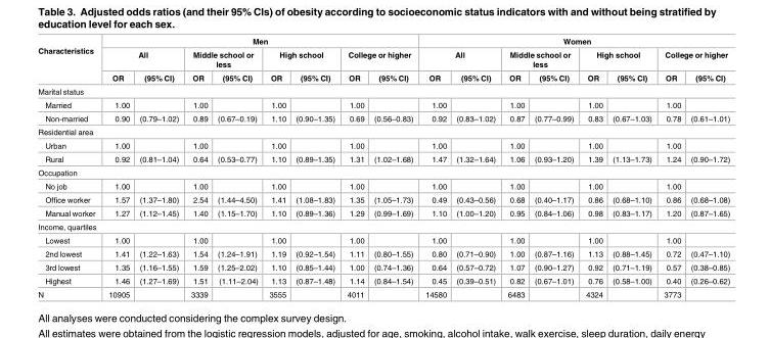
<table><thead><tr><td rowspan="3">Characteristics</td><td colspan="8">Men</td><td colspan="8">Women</td></tr><tr><td colspan="2">All</td><td colspan="2">Middle school or less</td><td colspan="2">High school</td><td colspan="2">College or higher</td><td colspan="2">All</td><td colspan="2">Middle school or less</td><td colspan="2">High school</td><td colspan="2">College or higher</td></tr><tr><td>OR</td><td>(95% CI)</td><td>OR</td><td>(95% CI)</td><td>OR</td><td>(95% CI)</td><td>OR</td><td>(95% CI)</td><td>OR</td><td>(95% CI)</td><td>OR</td><td>(95% CI)</td><td>OR</td><td>(95% CI)</td><td>OR</td><td>(95% CI)</td></tr></thead><tbody><tr><td colspan="17">Marital status</td></tr><tr><td>Married</td><td>1.00</td><td></td><td>1.00</td><td></td><td>1.00</td><td></td><td>1.00</td><td></td><td>1.00</td><td></td><td>1.00</td><td></td><td>1.00</td><td></td><td>1.00</td><td></td></tr><tr><td>Non-married</td><td>0.90</td><td>(0.79–1.02)</td><td>0.89</td><td>(0.67–0.19)</td><td>1.10</td><td>(0.90–1.35)</td><td>0.69</td><td>(0.56–0.83)</td><td>0.92</td><td>(0.83–1.02)</td><td>0.87</td><td>(0.77–0.99)</td><td>0.83</td><td>(0.67–1.03)</td><td>0.78</td><td>(0.61–1.01)</td></tr><tr><td colspan="17">Residential area</td></tr><tr><td>Urban</td><td>1.00</td><td></td><td>1.00</td><td></td><td>1.00</td><td></td><td>1.00</td><td></td><td>1.00</td><td></td><td>1.00</td><td></td><td>1.00</td><td></td><td>1.00</td><td></td></tr><tr><td>Rural</td><td>0.92</td><td>(0.81–1.04)</td><td>0.64</td><td>(0.53–0.77)</td><td>1.10</td><td>(0.89–1.35)</td><td>1.31</td><td>(1.02–1.68)</td><td>1.47</td><td>(1.32–1.64)</td><td>1.06</td><td>(0.93–1.20)</td><td>1.39</td><td>(1.13–1.73)</td><td>1.24</td><td>(0.90–1.72)</td></tr><tr><td colspan="17">Occupation</td></tr><tr><td>No job</td><td>1.00</td><td></td><td>1.00</td><td></td><td>1.00</td><td></td><td>1.00</td><td></td><td>1.00</td><td></td><td>1.00</td><td></td><td>1.00</td><td></td><td>1.00</td><td></td></tr><tr><td>Office worker</td><td>1.57</td><td>(1.37–1.80)</td><td>2.54</td><td>(1.44–4.50)</td><td>1.41</td><td>(1.08–1.83)</td><td>1.35</td><td>(1.05–1.73)</td><td>0.49</td><td>(0.43–0.56)</td><td>0.68</td><td>(0.40–1.17)</td><td>0.86</td><td>(0.68–1.10)</td><td>0.86</td><td>(0.68–1.08)</td></tr><tr><td>Manual worker</td><td>1.27</td><td>(1.12–1.45)</td><td>1.40</td><td>(1.15–1.70)</td><td>1.10</td><td>(0.89–1.36)</td><td>1.29</td><td>(0.99–1.69)</td><td>1.10</td><td>(1.00–1.20)</td><td>0.95</td><td>(0.84–1.06)</td><td>0.98</td><td>(0.83–1.17)</td><td>1.20</td><td>(0.87–1.65)</td></tr><tr><td colspan="17">Income, quartiles</td></tr><tr><td>Lowest</td><td>1.00</td><td></td><td>1.00</td><td></td><td>1.00</td><td></td><td>1.00</td><td></td><td>1.00</td><td></td><td>1.00</td><td></td><td>1.00</td><td></td><td>1.00</td><td></td></tr><tr><td>2nd lowest</td><td>1.41</td><td>(1.22–1.63)</td><td>1.54</td><td>(1.24–1.91)</td><td>1.19</td><td>(0.92–1.54)</td><td>1.11</td><td>(0.80–1.55)</td><td>0.80</td><td>(0.71–0.90)</td><td>1.00</td><td>(0.87–1.16)</td><td>1.13</td><td>(0.88–1.45)</td><td>0.72</td><td>(0.47–1.10)</td></tr><tr><td>3rd lowest</td><td>1.35</td><td>(1.16–1.55)</td><td>1.59</td><td>(1.25–2.02)</td><td>1.10</td><td>(0.85–1.44)</td><td>1.00</td><td>(0.74–1.36)</td><td>0.64</td><td>(0.57–0.72)</td><td>1.07</td><td>(0.90–1.27)</td><td>0.92</td><td>(0.71–1.19)</td><td>0.57</td><td>(0.38–0.85)</td></tr><tr><td>Highest</td><td>1.46</td><td>(1.27–1.69)</td><td>1.51</td><td>(1.11–2.04)</td><td>1.13</td><td>(0.87–1.48)</td><td>1.14</td><td>(0.84–1.54)</td><td>0.45</td><td>(0.39–0.51)</td><td>0.82</td><td>(0.67–1.01)</td><td>0.76</td><td>(0.58–1.00)</td><td>0.40</td><td>(0.26–0.62)</td></tr><tr><td>N</td><td>10905</td><td></td><td>3339</td><td></td><td>3555</td><td></td><td>4011</td><td></td><td>14580</td><td></td><td>6483</td><td></td><td>4324</td><td></td><td>3773</td><td></td></tr></tbody></table>